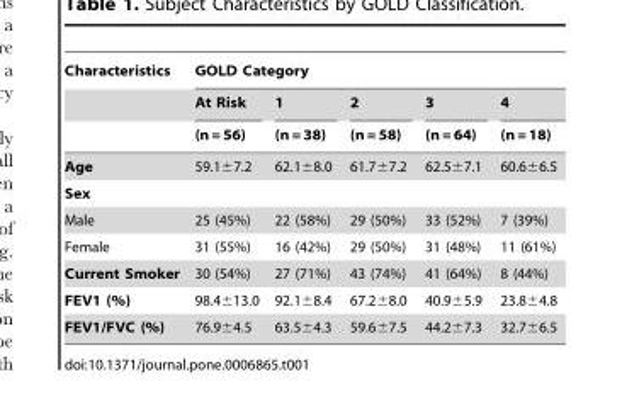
<table><thead><tr><td rowspan="3">Characteristics</td><td colspan="5">GOLD Category</td></tr><tr><td rowspan="2">At Risk (n = 56)</td><td rowspan="2">1 (n = 38)</td><td rowspan="2">2 (n = 58)</td><td rowspan="2">3 (n = 64)</td><td rowspan="2">4 (n = 18)</td></tr><tr></tr></thead><tbody><tr><td>Age</td><td>59.1±7.2</td><td>62.1±8.0</td><td>61.7±7.2</td><td>62.5±7.1</td><td>60.6±6.5</td></tr><tr><td colspan="6">Sex</td></tr><tr><td>Male</td><td>25 (45%)</td><td>22 (58%)</td><td>29 (50%)</td><td>33 (52%)</td><td>7 (39%)</td></tr><tr><td>Female</td><td>31 (55%)</td><td>16 (42%)</td><td>29 (50%)</td><td>31 (48%)</td><td>11 (61%)</td></tr><tr><td>Current Smoker</td><td>30 (54%)</td><td>27 (71%)</td><td>43 (74%)</td><td>41 (64%)</td><td>8 (44%)</td></tr><tr><td>FEV1 (%)</td><td>98.4±13.0</td><td>92.1±8.4</td><td>67.2±8.0</td><td>40.9±5.9</td><td>23.8±4.8</td></tr><tr><td>FEV1/FVC (%)</td><td>76.9±4.5</td><td>63.5±4.3</td><td>59.6±7.5</td><td>44.2±7.3</td><td>32.7±6.5</td></tr></tbody></table>